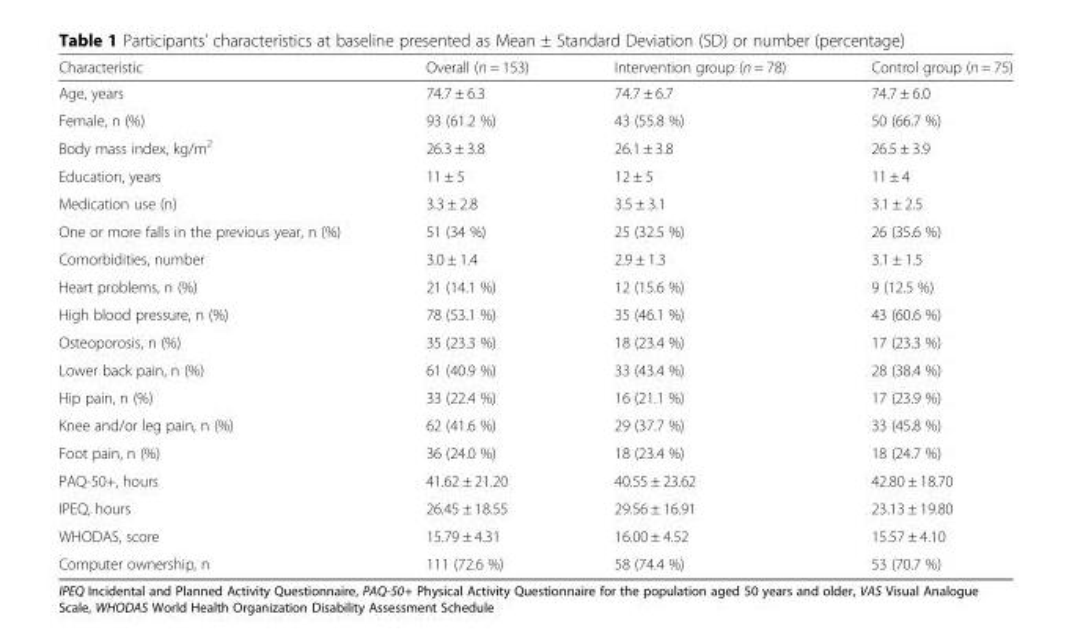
<table><thead><tr><td>Characteristic</td><td>Overall (n = 153)</td><td>Intervention group (n = 78)</td><td>Control group (n = 75)</td></tr></thead><tbody><tr><td>Age, years</td><td>74.7 ± 6.3</td><td>74.7 ± 6.7</td><td>74.7 ± 6.0</td></tr><tr><td>Female, n (%)</td><td>93 (61.2 %)</td><td>43 (55.8 %)</td><td>50 (66.7 %)</td></tr><tr><td>Body mass index, kg/m<sup>2</sup></td><td>26.3 ± 3.8</td><td>26.1 ± 3.8</td><td>26.5 ± 3.9</td></tr><tr><td>Education, years</td><td>11 ± 5</td><td>12 ± 5</td><td>11 ± 4</td></tr><tr><td>Medication use (n)</td><td>3.3 ± 2.8</td><td>3.5 ± 3.1</td><td>3.1 ± 2.5</td></tr><tr><td>One or more falls in the previous year, n (%)</td><td>51 (34 %)</td><td>25 (32.5 %)</td><td>26 (35.6 %)</td></tr><tr><td>Comorbidities, number</td><td>3.0 ± 1.4</td><td>2.9 ± 1.3</td><td>3.1 ± 1.5</td></tr><tr><td>Heart problems, n (%)</td><td>21 (14.1 %)</td><td>12 (15.6 %)</td><td>9 (12.5 %)</td></tr><tr><td>High blood pressure, n (%)</td><td>78 (53.1 %)</td><td>35 (46.1 %)</td><td>43 (60.6 %)</td></tr><tr><td>Osteoporosis, n (%)</td><td>35 (23.3 %)</td><td>18 (23.4 %)</td><td>17 (23.3 %)</td></tr><tr><td>Lower back pain, n (%)</td><td>61 (40.9 %)</td><td>33 (43.4 %)</td><td>28 (38.4 %)</td></tr><tr><td>Hip pain, n (%)</td><td>33 (22.4 %)</td><td>16 (21.1 %)</td><td>17 (23.9 %)</td></tr><tr><td>Knee and/or leg pain, n (%)</td><td>62 (41.6 %)</td><td>29 (37.7 %)</td><td>33 (45.8 %)</td></tr><tr><td>Foot pain, n (%)</td><td>36 (24.0 %)</td><td>18 (23.4 %)</td><td>18 (24.7 %)</td></tr><tr><td>PAQ-50+, hours</td><td>41.62 ± 21.20</td><td>40.55 ± 23.62</td><td>42.80 ± 18.70</td></tr><tr><td>IPEQ, hours</td><td>26.45 ± 18.55</td><td>29.56 ± 16.91</td><td>23.13 ± 19.80</td></tr><tr><td>WHODAS, score</td><td>15.79 ± 4.31</td><td>16.00 ± 4.52</td><td>15.57 ± 4.10</td></tr><tr><td>Computer ownership, n</td><td>111 (72.6 %)</td><td>58 (74.4 %)</td><td>53 (70.7 %)</td></tr></tbody></table>